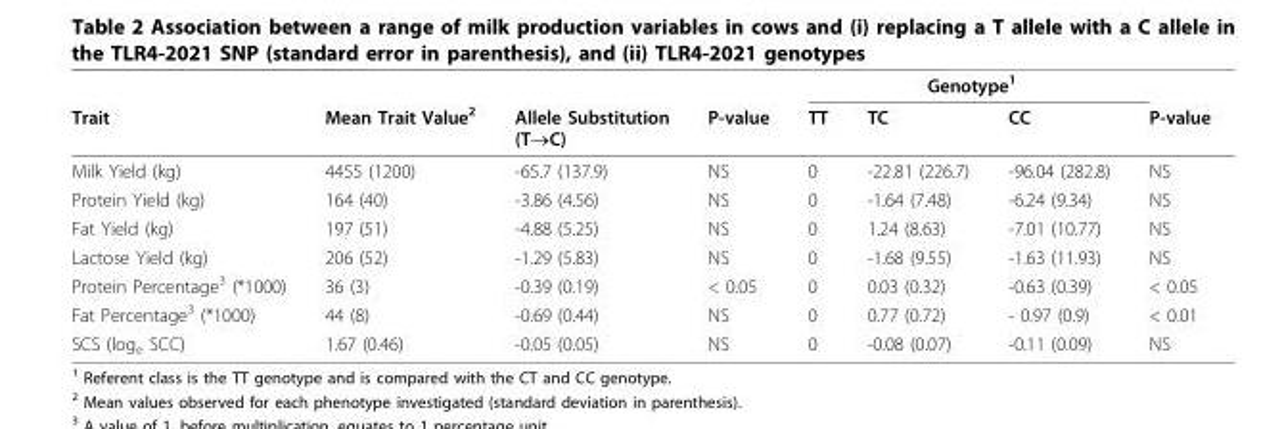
<table><thead><tr><td rowspan="2">Trait</td><td rowspan="2">Mean Trait Value<sup>2</sup></td><td rowspan="2">Allele Substitution (T→C)</td><td rowspan="2">P-value</td><td colspan="3">Genotype<sup>1</sup></td><td rowspan="2">P-value</td></tr><tr><td>TT</td><td>TC</td><td>CC</td></tr></thead><tbody><tr><td>Milk Yield (kg)</td><td>4455 (1200)</td><td>-65.7 (137.9)</td><td>NS</td><td>0</td><td>-22.81 (226.7)</td><td>-96.04 (282.8)</td><td>NS</td></tr><tr><td>Protein Yield (kg)</td><td>164 (40)</td><td>-3.86 (4.56)</td><td>NS</td><td>0</td><td>-1.64 (7.48)</td><td>-6.24 (9.34)</td><td>NS</td></tr><tr><td>Fat Yield (kg)</td><td>197 (51)</td><td>-4.88 (5.25)</td><td>NS</td><td>0</td><td>1.24 (8.63)</td><td>-7.01 (10.77)</td><td>NS</td></tr><tr><td>Lactose Yield (kg)</td><td>206 (52)</td><td>-1.29 (5.83)</td><td>NS</td><td>0</td><td>-1.68 (9.55)</td><td>-1.63 (11.93)</td><td>NS</td></tr><tr><td>Protein Percentage<sup>3</sup> (*1000)</td><td>36 (3)</td><td>-0.39 (0.19)</td><td>&lt; 0.05</td><td>0</td><td>0.03 (0.32)</td><td>-0.63 (0.39)</td><td>&lt; 0.05</td></tr><tr><td>Fat Percentage<sup>3</sup> (*1000)</td><td>44 (8)</td><td>-0.69 (0.44)</td><td>NS</td><td>0</td><td>0.77 (0.72)</td><td>- 0.97 (0.9)</td><td>&lt; 0.01</td></tr><tr><td>SCS (log<sub>e</sub> SCC)</td><td>1.67 (0.46)</td><td>-0.05 (0.05)</td><td>NS</td><td>0</td><td>-0.08 (0.07)</td><td>-0.11 (0.09)</td><td>NS</td></tr></tbody></table>